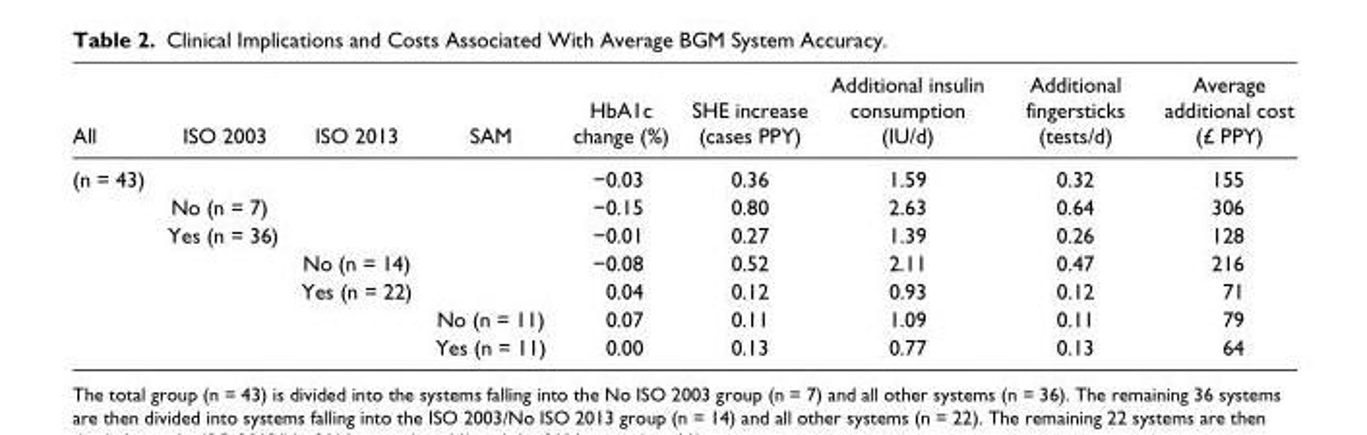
<table><thead><tr><td>All</td><td>ISO 2003</td><td>ISO 2013</td><td>SAM</td><td>HbA1c change (%)</td><td>SHE increase (cases PPY)</td><td>Additional insulin consumption (IU/d)</td><td>Additional fingersticks (tests/d)</td><td>Average additional cost (£ PPY)</td></tr></thead><tbody><tr><td rowspan="7">(n = 43)</td><td></td><td></td><td></td><td>−0.03</td><td>0.36</td><td>1.59</td><td>0.32</td><td>155</td></tr><tr><td>No (n = 7)</td><td></td><td></td><td>−0.15</td><td>0.80</td><td>2.63</td><td>0.64</td><td>306</td></tr><tr><td>Yes (n = 36)</td><td></td><td></td><td>−0.01</td><td>0.27</td><td>1.39</td><td>0.26</td><td>128</td></tr><tr><td></td><td>No (n = 14)</td><td></td><td>−0.08</td><td>0.52</td><td>2.11</td><td>0.47</td><td>216</td></tr><tr><td></td><td>Yes (n = 22)</td><td></td><td>0.04</td><td>0.12</td><td>0.93</td><td>0.12</td><td>71</td></tr><tr><td></td><td></td><td>No (n = 11)</td><td>0.07</td><td>0.11</td><td>1.09</td><td>0.11</td><td>79</td></tr><tr><td></td><td></td><td>Yes (n = 11)</td><td>0.00</td><td>0.13</td><td>0.77</td><td>0.13</td><td>64</td></tr></tbody></table>